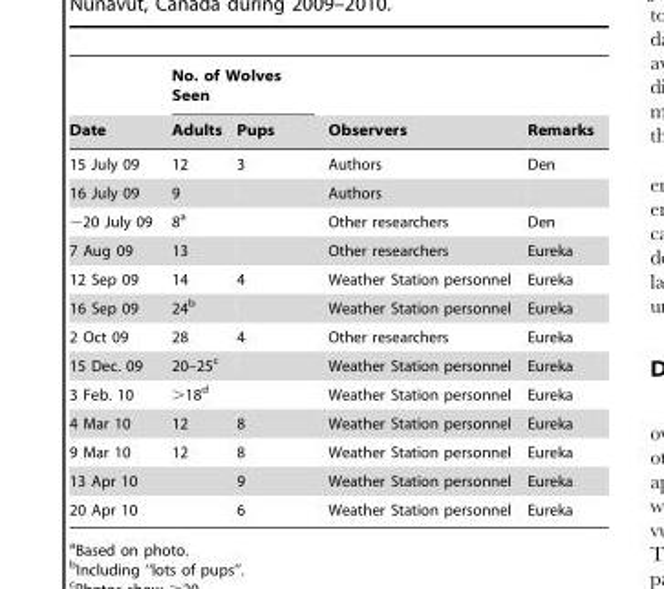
<table><thead><tr><td rowspan="2">Date</td><td colspan="2">No. of Wolves Seen</td><td rowspan="2">Observers</td><td rowspan="2">Remarks</td></tr><tr><td>Adults</td><td>Pups</td></tr></thead><tbody><tr><td>15 July 09</td><td>12</td><td>3</td><td>Authors</td><td>Den</td></tr><tr><td>16 July 09</td><td>9</td><td></td><td>Authors</td><td></td></tr><tr><td>∼20 July 09</td><td>8<sup>a</sup></td><td></td><td>Other researchers</td><td>Den</td></tr><tr><td>7 Aug 09</td><td>13</td><td></td><td>Other researchers</td><td>Eureka</td></tr><tr><td>12 Sep 09</td><td>14</td><td>4</td><td>Weather Station personnel</td><td>Eureka</td></tr><tr><td>16 Sep 09</td><td>24<sup>b</sup></td><td></td><td>Weather Station personnel</td><td>Eureka</td></tr><tr><td>2 Oct 09</td><td>28</td><td>4</td><td>Other researchers</td><td>Eureka</td></tr><tr><td>15 Dec. 09</td><td>20–25<sup>c</sup></td><td></td><td>Weather Station personnel</td><td>Eureka</td></tr><tr><td>3 Feb. 10</td><td>&gt;18<sup>d</sup></td><td></td><td>Weather Station personnel</td><td>Eureka</td></tr><tr><td>4 Mar 10</td><td>12</td><td>8</td><td>Weather Station personnel</td><td>Eureka</td></tr><tr><td>9 Mar 10</td><td>12</td><td>8</td><td>Weather Station personnel</td><td>Eureka</td></tr><tr><td>13 Apr 10</td><td></td><td>9</td><td>Weather Station personnel</td><td>Eureka</td></tr><tr><td>20 Apr 10</td><td></td><td>6</td><td>Weather Station personnel</td><td>Eureka</td></tr></tbody></table>